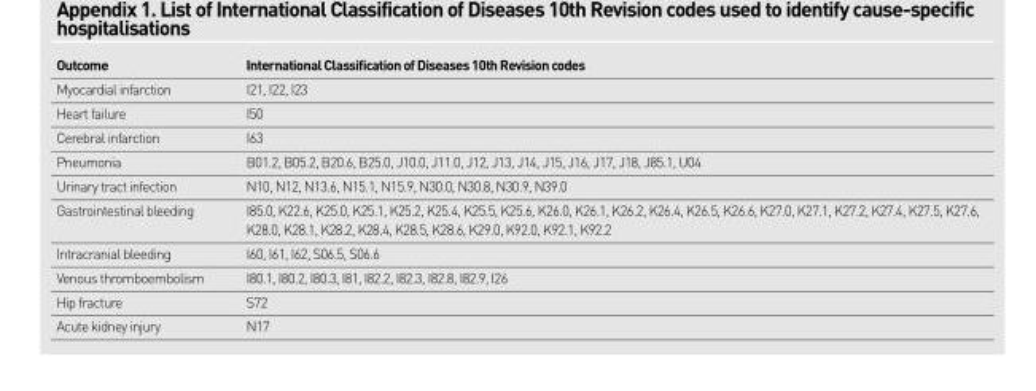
<table><thead><tr><td>Outcome</td><td>International Classification of Diseases 10th Revision codes</td></tr></thead><tbody><tr><td>Myocardial infarction</td><td>I21, I22, I23</td></tr><tr><td>Heart failure</td><td>I50</td></tr><tr><td>Cerebral infarction</td><td>I63</td></tr><tr><td>Pneumonia</td><td>B01.2, B05.2, B20.6, B25.0, J10.0, J11.0, J12, J13, J14, J15, J16, J17, J18, J85.1, U04</td></tr><tr><td>Urinary tract infection</td><td>N10, N12, N13.6, N15.1, N15.9, N30.0, N30.8, N30.9, N39.0</td></tr><tr><td>Gastrointestinal bleeding</td><td>I85.0, K22.6, K25.0, K25.1, K25.2, K25.4, K25.5, K25.6, K26.0, K26.1, K26.2, K26.4, K26.5, K26.6, K27.0, K27.1, K27.2, K27.4, K27.5, K27.6, K28.0, K28.1, K28.2, K28.4, K28.5, K28.6, K29.0, K92.0, K92.1, K92.2</td></tr><tr><td>Intracranial bleeding</td><td>I60, I61, I62, S06.5, S06.6</td></tr><tr><td>Venous thromboembolism</td><td>I80.1, I80.2, I80.3, I81, I82.2, I82.3, I82.8, I82.9, I26</td></tr><tr><td>Hip fracture</td><td>S72</td></tr><tr><td>Acute kidney injury</td><td>N17</td></tr></tbody></table>